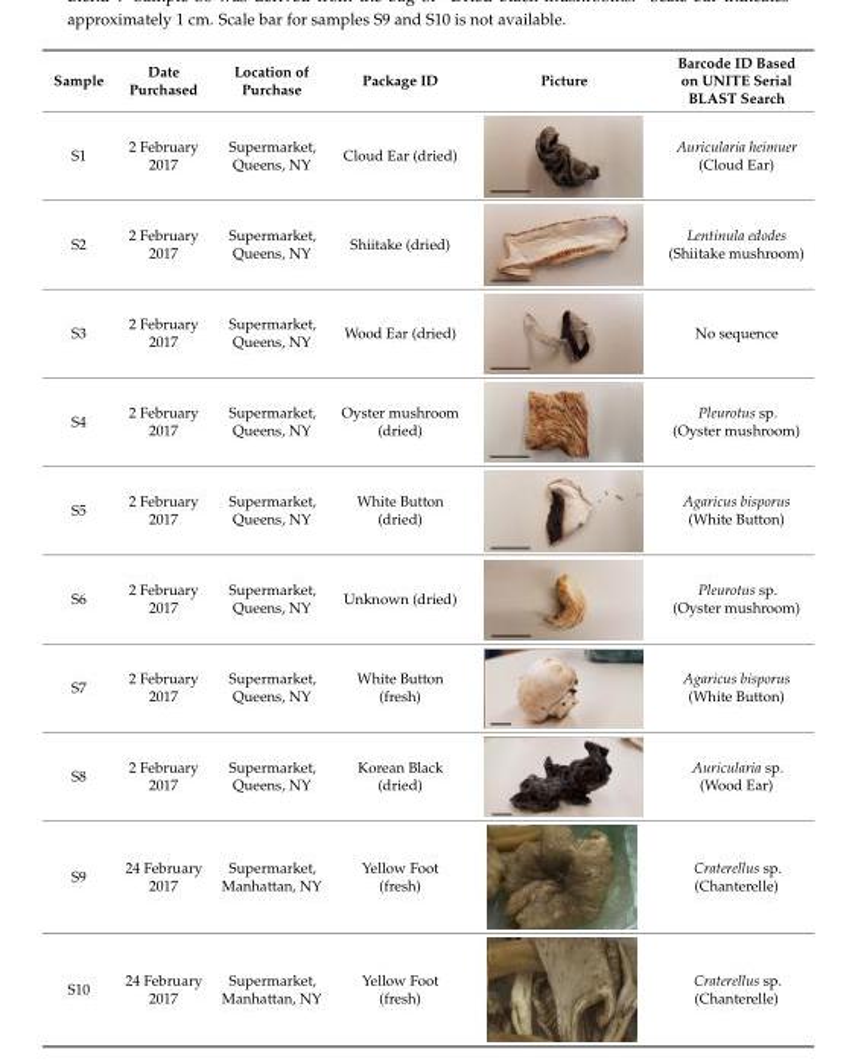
<table><thead><tr><td>Sample</td><td>Date Purchased</td><td>Location of Purchase</td><td>Package ID</td><td>Picture</td><td>Barcode ID Based on UNITE Serial BLAST Search</td></tr></thead><tbody><tr><td>S1</td><td>2 February 2017</td><td>Supermarket, Queens, NY</td><td>Cloud Ear (dried)</td><td></td><td>Auricularia heimuer (Cloud Ear)</td></tr><tr><td>S2</td><td>2 February 2017</td><td>Supermarket, Queens, NY</td><td>Shiitake (dried)</td><td></td><td>Lentinula edodes (Shiitake mushroom)</td></tr><tr><td>S3</td><td>2 February 2017</td><td>Supermarket, Queens, NY</td><td>Wood Ear (dried)</td><td></td><td>No sequence</td></tr><tr><td>S4</td><td>2 February 2017</td><td>Supermarket, Queens, NY</td><td>Oyster mushroom (dried)</td><td></td><td>Pleurotus sp. (Oyster mushroom)</td></tr><tr><td>S5</td><td>2 February 2017</td><td>Supermarket, Queens, NY</td><td>White Button (dried)</td><td></td><td>Agaricus bisporus (White Button)</td></tr><tr><td>S6</td><td>2 February 2017</td><td>Supermarket, Queens, NY</td><td>Unknown (dried)</td><td></td><td>Pleurotus sp. (Oyster mushroom)</td></tr><tr><td>S7</td><td>2 February 2017</td><td>Supermarket, Queens, NY</td><td>White Button (fresh)</td><td></td><td>Agaricus bisporus (White Button)</td></tr><tr><td>S8</td><td>2 February 2017</td><td>Supermarket, Queens, NY</td><td>Korean Black (dried)</td><td></td><td>Auricularia sp. (Wood Ear)</td></tr><tr><td>S9</td><td>24 February 2017</td><td>Supermarket, Manhattan, NY</td><td>Yellow Foot (fresh)</td><td></td><td>Craterellus sp. (Chanterelle)</td></tr><tr><td>S10</td><td>24 February 2017</td><td>Supermarket, Manhattan, NY</td><td>Yellow Foot (fresh)</td><td></td><td>Craterellus sp. (Chanterelle)</td></tr></tbody></table>